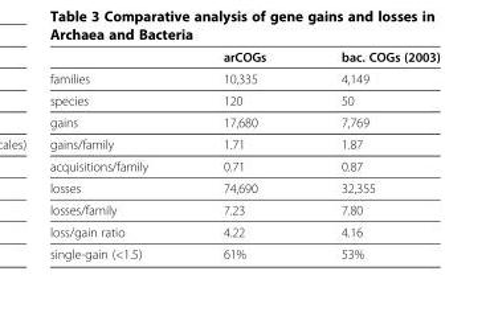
<table><thead><tr><td></td><td>arCOGs</td><td>bac. COGs (2003)</td></tr></thead><tbody><tr><td>families</td><td>10,335</td><td>4,149</td></tr><tr><td>species</td><td>120</td><td>50</td></tr><tr><td>gains</td><td>17,680</td><td>7,769</td></tr><tr><td>gains/family</td><td>1.71</td><td>1.87</td></tr><tr><td>acquisitions/family</td><td>0.71</td><td>0.87</td></tr><tr><td>losses</td><td>74,690</td><td>32,355</td></tr><tr><td>losses/family</td><td>7.23</td><td>7.80</td></tr><tr><td>loss/gain ratio</td><td>4.22</td><td>4.16</td></tr><tr><td>single-gain (&lt;1.5)</td><td>61%</td><td>53%</td></tr></tbody></table>